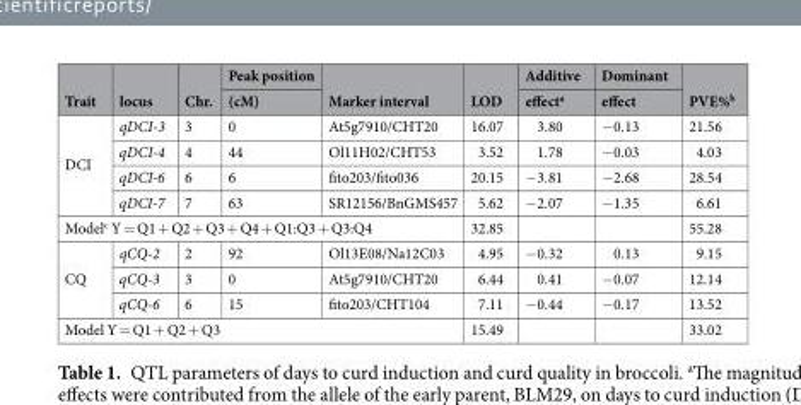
<table><thead><tr><td rowspan="2">Trait</td><td rowspan="2">locus</td><td rowspan="2">Chr.</td><td rowspan="2">Peak position (cM)</td><td rowspan="2">Marker interval</td><td rowspan="2">LOD</td><td rowspan="2">Additive effect<sup>a</sup></td><td rowspan="2">Dominant effect</td><td rowspan="2">PVE%<sup>b</sup></td></tr><tr></tr></thead><tbody><tr><td rowspan="4">DCI</td><td>qDCI-3</td><td>3</td><td>0</td><td>At5g7910/CHT20</td><td>16.07</td><td>3.80</td><td>−0.13</td><td>21.56</td></tr><tr><td>qDCI-4</td><td>4</td><td>44</td><td>Ol11H02/CHT53</td><td>3.52</td><td>1.78</td><td>−0.03</td><td>4.03</td></tr><tr><td>qDCI-6</td><td>6</td><td>6</td><td>fito203/fito036</td><td>20.15</td><td>−3.81</td><td>−2.68</td><td>28.54</td></tr><tr><td>qDCI-7</td><td>7</td><td>63</td><td>SR12156/BnGMS457</td><td>5.62</td><td>−2.07</td><td>−1.35</td><td>6.61</td></tr><tr><td colspan="5">Model<sup>c</sup> Y = Q1 + Q2 + Q3 + Q4 + Q1:Q3 + Q3:Q4</td><td>32.85</td><td></td><td></td><td>55.28</td></tr><tr><td rowspan="3">CQ</td><td>qCQ-2</td><td>2</td><td>92</td><td>Ol13E08/Na12C03</td><td>4.95</td><td>−0.32</td><td>0.13</td><td>9.15</td></tr><tr><td>qCQ-3</td><td>3</td><td>0</td><td>At5g7910/CHT20</td><td>6.44</td><td>0.41</td><td>−0.07</td><td>12.14</td></tr><tr><td>qCQ-6</td><td>6</td><td>15</td><td>fito203/CHT104</td><td>7.11</td><td>−0.44</td><td>−0.17</td><td>13.52</td></tr><tr><td colspan="5">Model Y = Q1 + Q2 + Q3</td><td>15.49</td><td></td><td></td><td>33.02</td></tr></tbody></table>